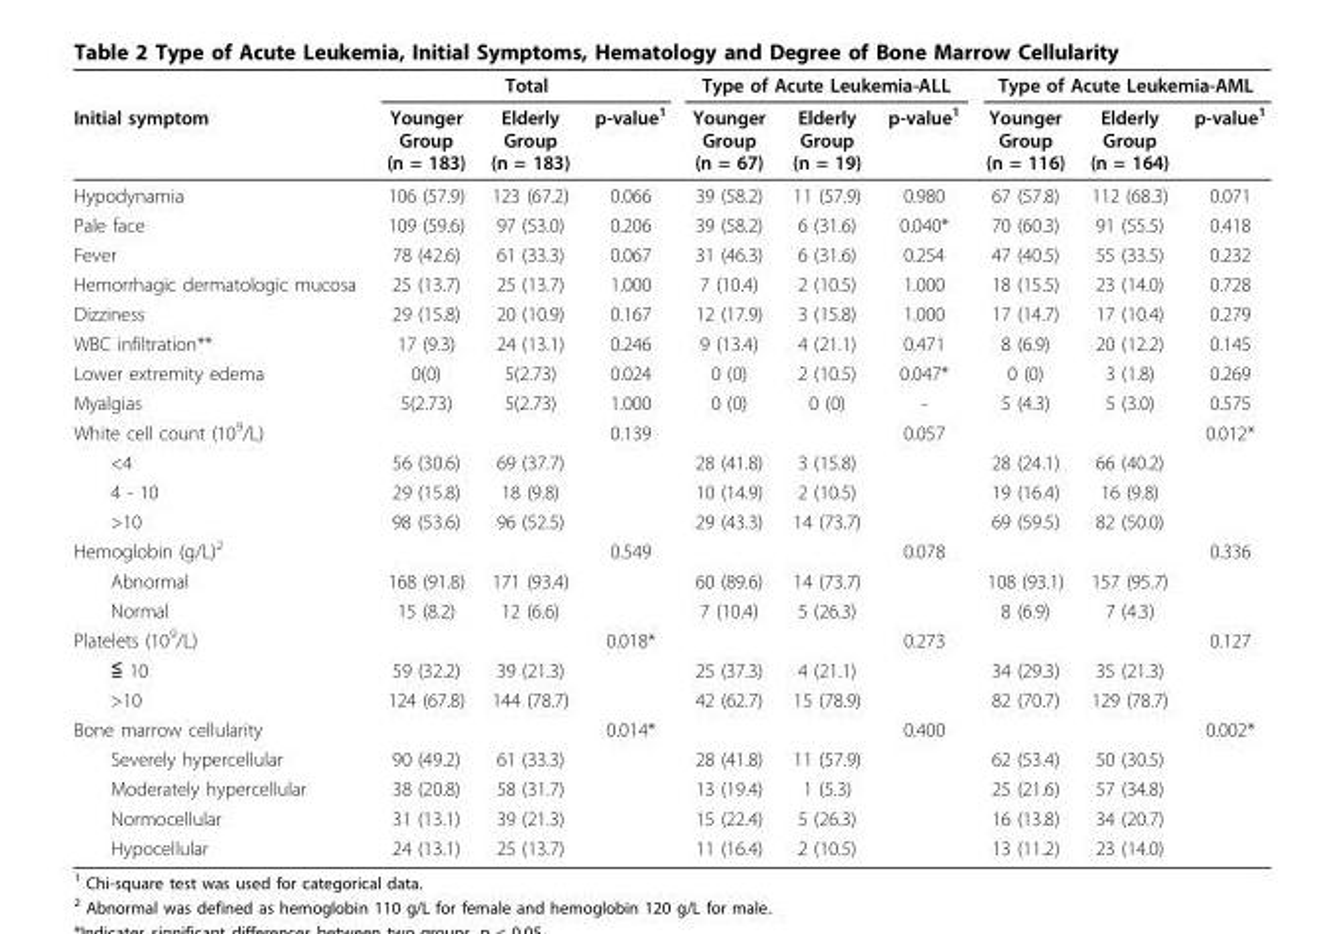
<table><thead><tr><td rowspan="2">Initial symptom</td><td colspan="3">Total</td><td colspan="3">Type of Acute Leukemia-ALL</td><td colspan="3">Type of Acute Leukemia-AML</td></tr><tr><td>Younger Group (n = 183)</td><td>Elderly Group (n = 183)</td><td>p-value<sup>1</sup></td><td>Younger Group (n = 67)</td><td>Elderly Group (n = 19)</td><td>p-value<sup>1</sup></td><td>Younger Group (n = 116)</td><td>Elderly Group (n = 164)</td><td>p-value<sup>1</sup></td></tr></thead><tbody><tr><td>Hypodynamia</td><td>106 (57.9)</td><td>123 (67.2)</td><td>0.066</td><td>39 (58.2)</td><td>11 (57.9)</td><td>0.980</td><td>67 (57.8)</td><td>112 (68.3)</td><td>0.071</td></tr><tr><td>Pale face</td><td>109 (59.6)</td><td>97 (53.0)</td><td>0.206</td><td>39 (58.2)</td><td>6 (31.6)</td><td>0.040*</td><td>70 (60.3)</td><td>91 (55.5)</td><td>0.418</td></tr><tr><td>Fever</td><td>78 (42.6)</td><td>61 (33.3)</td><td>0.067</td><td>31 (46.3)</td><td>6 (31.6)</td><td>0.254</td><td>47 (40.5)</td><td>55 (33.5)</td><td>0.232</td></tr><tr><td>Hemorrhagic dermatologic mucosa</td><td>25 (13.7)</td><td>25 (13.7)</td><td>1.000</td><td>7 (10.4)</td><td>2 (10.5)</td><td>1.000</td><td>18 (15.5)</td><td>23 (14.0)</td><td>0.728</td></tr><tr><td>Dizziness</td><td>29 (15.8)</td><td>20 (10.9)</td><td>0.167</td><td>12 (17.9)</td><td>3 (15.8)</td><td>1.000</td><td>17 (14.7)</td><td>17 (10.4)</td><td>0.279</td></tr><tr><td>WBC infiltration**</td><td>17 (9.3)</td><td>24 (13.1)</td><td>0.246</td><td>9 (13.4)</td><td>4 (21.1)</td><td>0.471</td><td>8 (6.9)</td><td>20 (12.2)</td><td>0.145</td></tr><tr><td>Lower extremity edema</td><td>0(0)</td><td>5(2.73)</td><td>0.024</td><td>0 (0)</td><td>2 (10.5)</td><td>0.047*</td><td>0 (0)</td><td>3 (1.8)</td><td>0.269</td></tr><tr><td>Myalgias</td><td>5(2.73)</td><td>5(2.73)</td><td>1.000</td><td>0 (0)</td><td>0 (0)</td><td>-</td><td>5 (4.3)</td><td>5 (3.0)</td><td>0.575</td></tr><tr><td>White cell count (10<sup>9</sup>/L)</td><td></td><td></td><td>0.139</td><td></td><td></td><td>0.057</td><td></td><td></td><td>0.012*</td></tr><tr><td>&lt;4</td><td>56 (30.6)</td><td>69 (37.7)</td><td></td><td>28 (41.8)</td><td>3 (15.8)</td><td></td><td>28 (24.1)</td><td>66 (40.2)</td><td></td></tr><tr><td>4 - 10</td><td>29 (15.8)</td><td>18 (9.8)</td><td></td><td>10 (14.9)</td><td>2 (10.5)</td><td></td><td>19 (16.4)</td><td>16 (9.8)</td><td></td></tr><tr><td>&gt;10</td><td>98 (53.6)</td><td>96 (52.5)</td><td></td><td>29 (43.3)</td><td>14 (73.7)</td><td></td><td>69 (59.5)</td><td>82 (50.0)</td><td></td></tr><tr><td>Hemoglobin (g/L)<sup>2</sup></td><td></td><td></td><td>0.549</td><td></td><td></td><td>0.078</td><td></td><td></td><td>0.336</td></tr><tr><td>Abnormal</td><td>168 (91.8)</td><td>171 (93.4)</td><td></td><td>60 (89.6)</td><td>14 (73.7)</td><td></td><td>108 (93.1)</td><td>157 (95.7)</td><td></td></tr><tr><td>Normal</td><td>15 (8.2)</td><td>12 (6.6)</td><td></td><td>7 (10.4)</td><td>5 (26.3)</td><td></td><td>8 (6.9)</td><td>7 (4.3)</td><td></td></tr><tr><td>Platelets (10<sup>9</sup>/L)</td><td></td><td></td><td>0.018*</td><td></td><td></td><td>0.273</td><td></td><td></td><td>0.127</td></tr><tr><td>≦ 10</td><td>59 (32.2)</td><td>39 (21.3)</td><td></td><td>25 (37.3)</td><td>4 (21.1)</td><td></td><td>34 (29.3)</td><td>35 (21.3)</td><td></td></tr><tr><td>&gt;10</td><td>124 (67.8)</td><td>144 (78.7)</td><td></td><td>42 (62.7)</td><td>15 (78.9)</td><td></td><td>82 (70.7)</td><td>129 (78.7)</td><td></td></tr><tr><td>Bone marrow cellularity</td><td></td><td></td><td>0.014*</td><td></td><td></td><td>0.400</td><td></td><td></td><td>0.002*</td></tr><tr><td>Severely hypercellular</td><td>90 (49.2)</td><td>61 (33.3)</td><td></td><td>28 (41.8)</td><td>11 (57.9)</td><td></td><td>62 (53.4)</td><td>50 (30.5)</td><td></td></tr><tr><td>Moderately hypercellular</td><td>38 (20.8)</td><td>58 (31.7)</td><td></td><td>13 (19.4)</td><td>1 (5.3)</td><td></td><td>25 (21.6)</td><td>57 (34.8)</td><td></td></tr><tr><td>Normocellular</td><td>31 (13.1)</td><td>39 (21.3)</td><td></td><td>15 (22.4)</td><td>5 (26.3)</td><td></td><td>16 (13.8)</td><td>34 (20.7)</td><td></td></tr><tr><td>Hypocellular</td><td>24 (13.1)</td><td>25 (13.7)</td><td></td><td>11 (16.4)</td><td>2 (10.5)</td><td></td><td>13 (11.2)</td><td>23 (14.0)</td><td></td></tr></tbody></table>